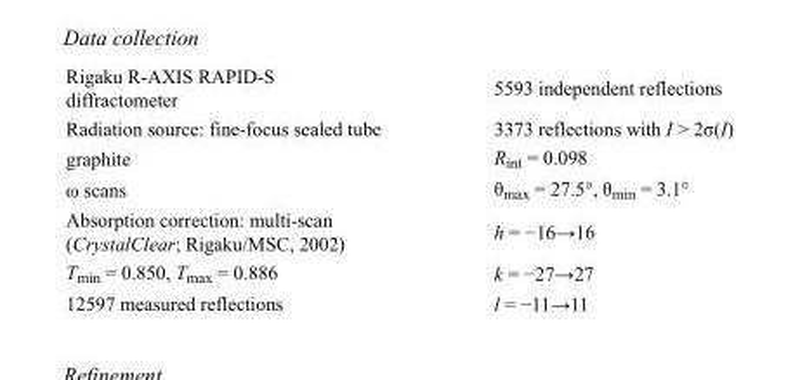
<table><tbody><tr><td>Rigaku R-AXIS RAPID-S diffractometer</td><td>5593 independent reflections</td></tr><tr><td>Radiation source: fine-focus sealed tube</td><td>3373 reflections with I &gt; 2σ(I)</td></tr><tr><td>graphite</td><td>R<sub>int</sub> = 0.098</td></tr><tr><td>ω scans</td><td>θ<sub>max</sub> = 27.5°, θ<sub>min</sub> = 3.1°</td></tr><tr><td>Absorption correction: multi-scan (CrystalClear; Rigaku/MSC, 2002)</td><td>h = −16→16</td></tr><tr><td>T<sub>min</sub> = 0.850, T<sub>max</sub> = 0.886</td><td>k = −27→27</td></tr><tr><td>12597 measured reflections</td><td>l = −11→11</td></tr></tbody></table>